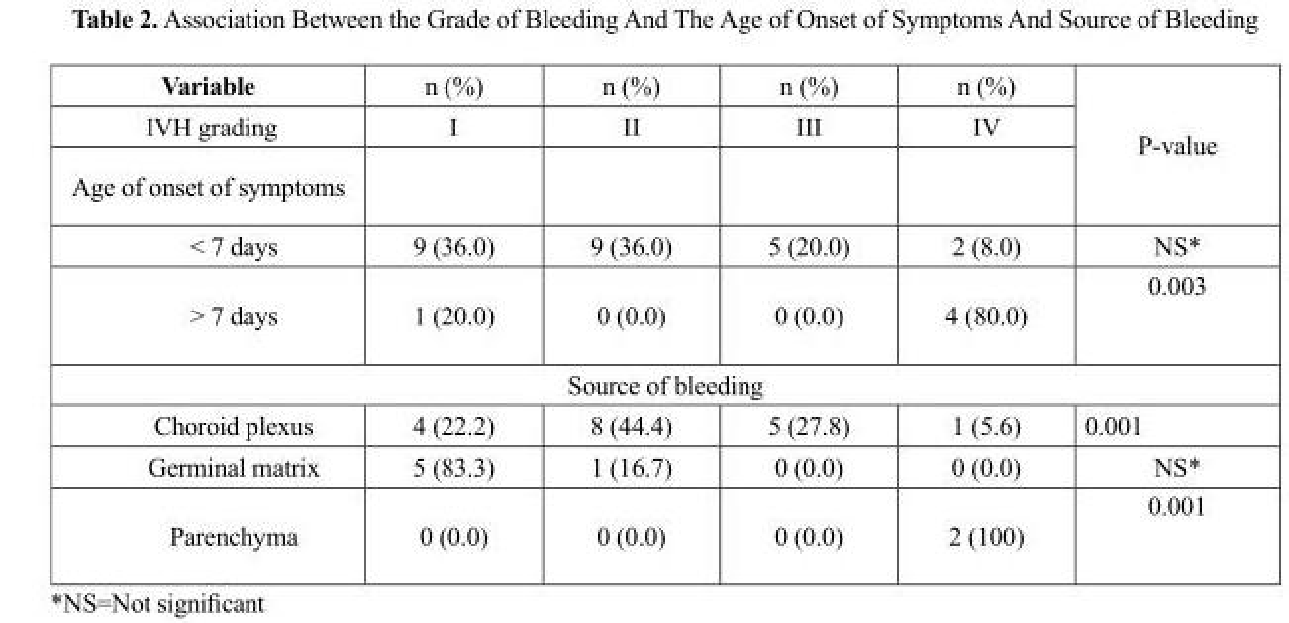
<table><thead><tr><td rowspan="3">Variable IVH grading Age of onset of symptoms</td><td rowspan="3">n (%) I</td><td rowspan="3">n (%) II</td><td rowspan="3">n (%) III</td><td rowspan="3">n (%) IV</td><td rowspan="3">P-value</td></tr><tr></tr><tr></tr></thead><tbody><tr><td>&lt; 7 days</td><td>9 (36.0)</td><td>9 (36.0)</td><td>5 (20.0)</td><td>2 (8.0)</td><td>NS*</td></tr><tr><td>&gt; 7 days</td><td>1 (20.0)</td><td>0 (0.0)</td><td>0 (0.0)</td><td>4 (80.0)</td><td>0.003</td></tr><tr><td colspan="6">Source of bleeding</td></tr><tr><td>Choroid plexus</td><td>4 (22.2)</td><td>8 (44.4)</td><td>5 (27.8)</td><td>1 (5.6)</td><td>0.001</td></tr><tr><td>Germinal matrix</td><td>5 (83.3)</td><td>1 (16.7)</td><td>0 (0.0)</td><td>0 (0.0)</td><td>NS*</td></tr><tr><td>Parenchyma</td><td>0 (0.0)</td><td>0 (0.0)</td><td>0 (0.0)</td><td>2 (100)</td><td>0.001</td></tr></tbody></table>